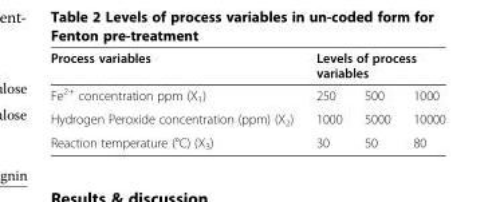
<table><thead><tr><td rowspan="2">Process variables Fe<sup>2+</sup> concentration ppm (X<sub>1</sub>)</td><td colspan="3">Levels of process variables</td></tr><tr><td>250</td><td>500</td><td>1000</td></tr></thead><tbody><tr><td>Hydrogen Peroxide concentration (ppm) (X<sub>2</sub>)</td><td>1000</td><td>5000</td><td>10000</td></tr><tr><td>Reaction temperature (°C) (X<sub>3</sub>)</td><td>30</td><td>50</td><td>80</td></tr></tbody></table>